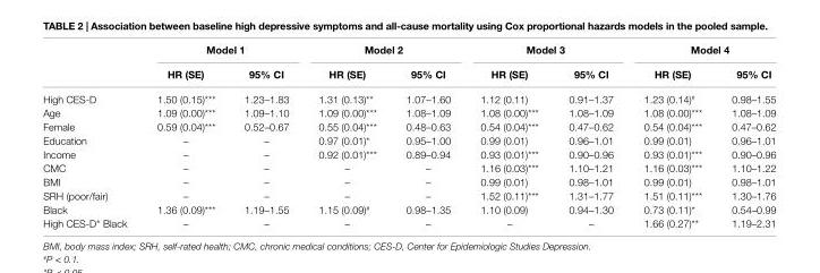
<table><thead><tr><td rowspan="2"></td><td colspan="2">Model 1</td><td colspan="2">Model 2</td><td colspan="2">Model 3</td><td colspan="2">Model 4</td></tr><tr><td>hr (se)</td><td>95% ci</td><td>hr (se)</td><td>95% ci</td><td>hr (se)</td><td>95% ci</td><td>hr (se)</td><td>95% ci</td></tr></thead><tbody><tr><td>High CES-D</td><td>1.50 (0.15)***</td><td>1.23–1.83</td><td>1.31 (0.13)**</td><td>1.07–1.60</td><td>1.12 (0.11)</td><td>0.91–1.37</td><td>1.23 (0.14)<sup>#</sup></td><td>0.98–1.55</td></tr><tr><td>Age</td><td>1.09 (0.00)***</td><td>1.09–1.10</td><td>1.09 (0.00)***</td><td>1.08–1.09</td><td>1.08 (0.00)***</td><td>1.08–1.09</td><td>1.08 (0.00)***</td><td>1.08–1.09</td></tr><tr><td>Female</td><td>0.59 (0.04)***</td><td>0.52–0.67</td><td>0.55 (0.04)***</td><td>0.48–0.63</td><td>0.54 (0.04)***</td><td>0.47–0.62</td><td>0.54 (0.04)***</td><td>0.47–0.62</td></tr><tr><td>Education</td><td>–</td><td>–</td><td>0.97 (0.01)*</td><td>0.95–1.00</td><td>0.99 (0.01)</td><td>0.96–1.01</td><td>0.99 (0.01)</td><td>0.96–1.01</td></tr><tr><td>Income</td><td>–</td><td>–</td><td>0.92 (0.01)***</td><td>0.89–0.94</td><td>0.93 (0.01)***</td><td>0.90–0.96</td><td>0.93 (0.01)***</td><td>0.90–0.96</td></tr><tr><td>CMC</td><td>–</td><td>–</td><td>–</td><td>–</td><td>1.16 (0.03)***</td><td>1.10–1.21</td><td>1.16 (0.03)***</td><td>1.10–1.22</td></tr><tr><td>BMI</td><td>–</td><td>–</td><td>–</td><td>–</td><td>0.99 (0.01)</td><td>0.98–1.01</td><td>0.99 (0.01)</td><td>0.98–1.01</td></tr><tr><td>SRH (poor/fair)</td><td>–</td><td>–</td><td>–</td><td>–</td><td>1.52 (0.11)***</td><td>1.31–1.77</td><td>1.51 (0.11)***</td><td>1.30–1.76</td></tr><tr><td>Black</td><td>1.36 (0.09)***</td><td>1.19–1.55</td><td>1.15 (0.09)<sup>#</sup></td><td>0.98–1.35</td><td>1.10 (0.09)</td><td>0.94–1.30</td><td>0.73 (0.11)*</td><td>0.54–0.99</td></tr><tr><td>High CES-D* Black</td><td>–</td><td>–</td><td>–</td><td>–</td><td>–</td><td>–</td><td>1.66 (0.27)**</td><td>1.19–2.31</td></tr></tbody></table>